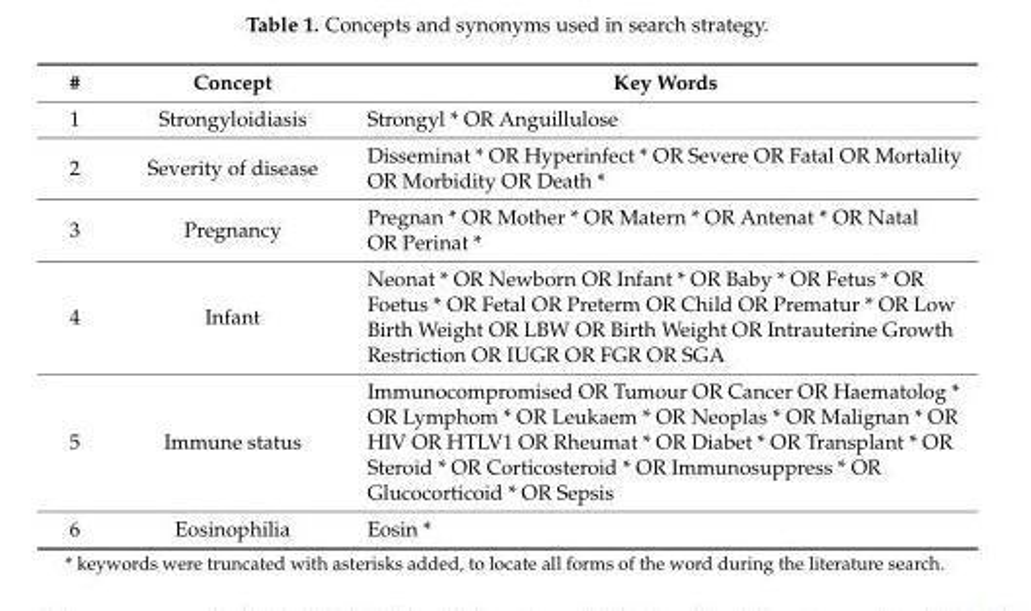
<table><thead><tr><td>#</td><td>Concept</td><td>Key Words</td></tr></thead><tbody><tr><td>1</td><td>Strongyloidiasis</td><td>Strongyl * OR Anguillulose</td></tr><tr><td>2</td><td>Severity of disease</td><td>Disseminat * OR Hyperinfect * OR Severe OR Fatal OR Mortality OR Morbidity OR Death *</td></tr><tr><td>3</td><td>Pregnancy</td><td>Pregnan * OR Mother * OR Matern * OR Antenat * OR Natal OR Perinat *</td></tr><tr><td>4</td><td>Infant</td><td>Neonat * OR Newborn OR Infant * OR Baby * OR Fetus * OR Foetus * OR Fetal OR Preterm OR Child OR Prematur * OR Low Birth Weight OR LBW OR Birth Weight OR Intrauterine Growth Restriction OR IUGR OR FGR OR SGA</td></tr><tr><td>5</td><td>Immune status</td><td>Immunocompromised OR Tumour OR Cancer OR Haematolog * OR Lymphom * OR Leukaem * OR Neoplas * OR Malignan * OR HIV OR HTLV1 OR Rheumat * OR Diabet * OR Transplant * OR Steroid * OR Corticosteroid * OR Immunosuppress * OR Glucocorticoid * OR Sepsis</td></tr><tr><td>6</td><td>Eosinophilia</td><td>Eosin *</td></tr></tbody></table>